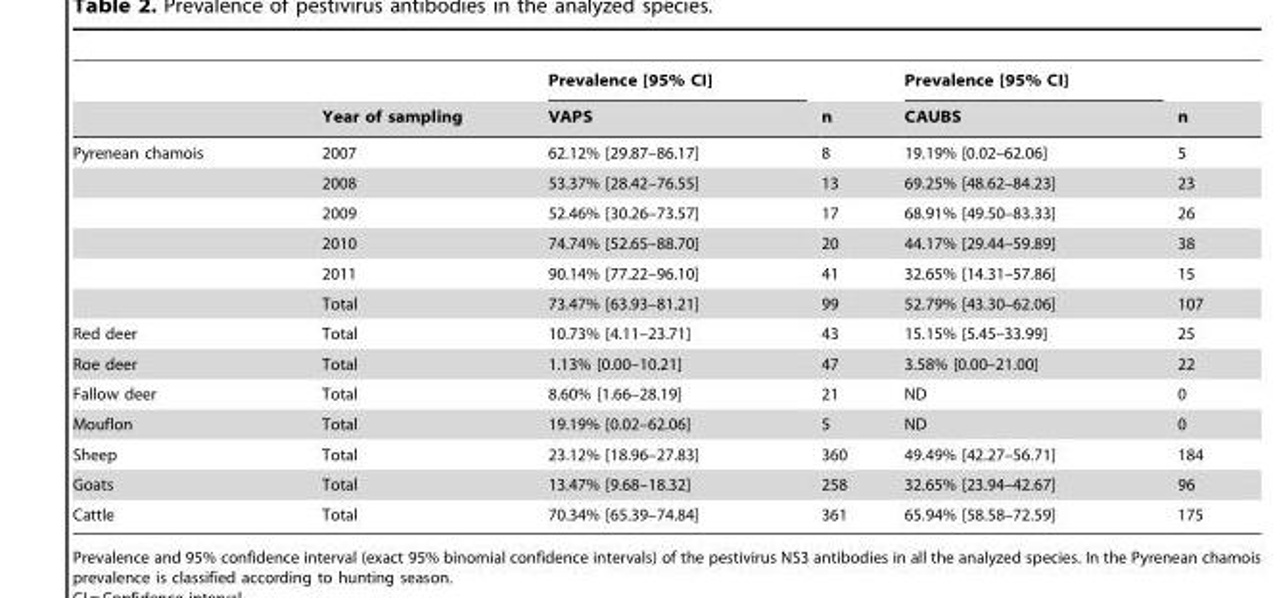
<table><thead><tr><td rowspan="2"></td><td rowspan="2">Year of sampling</td><td rowspan="2">Prevalence [95% CI] VAPS</td><td rowspan="2">n</td><td rowspan="2">Prevalence [95% CI] CAUBS</td><td rowspan="2">n</td></tr><tr></tr></thead><tbody><tr><td rowspan="6">Pyrenean chamois</td><td>2007</td><td>62.12% [29.87–86.17]</td><td>8</td><td>19.19% [0.02–62.06]</td><td>5</td></tr><tr><td>2008</td><td>53.37% [28.42–76.55]</td><td>13</td><td>69.25% [48.62–84.23]</td><td>23</td></tr><tr><td>2009</td><td>52.46% [30.26–73.57]</td><td>17</td><td>68.91% [49.50–83.33]</td><td>26</td></tr><tr><td>2010</td><td>74.74% [52.65–88.70]</td><td>20</td><td>44.17% [29.44–59.89]</td><td>38</td></tr><tr><td>2011</td><td>90.14% [77.22–96.10]</td><td>41</td><td>32.65% [14.31–57.86]</td><td>15</td></tr><tr><td>Total</td><td>73.47% [63.93–81.21]</td><td>99</td><td>52.79% [43.30–62.06]</td><td>107</td></tr><tr><td>Red deer</td><td>Total</td><td>10.73% [4.11–23.71]</td><td>43</td><td>15.15% [5.45–33.99]</td><td>25</td></tr><tr><td>Roe deer</td><td>Total</td><td>1.13% [0.00–10.21]</td><td>47</td><td>3.58% [0.00–21.00]</td><td>22</td></tr><tr><td>Fallow deer</td><td>Total</td><td>8.60% [1.66–28.19]</td><td>21</td><td>ND</td><td>0</td></tr><tr><td>Mouflon</td><td>Total</td><td>19.19% [0.02–62.06]</td><td>5</td><td>ND</td><td>0</td></tr><tr><td>Sheep</td><td>Total</td><td>23.12% [18.96–27.83]</td><td>360</td><td>49.49% [42.27–56.71]</td><td>184</td></tr><tr><td>Goats</td><td>Total</td><td>13.47% [9.68–18.32]</td><td>258</td><td>32.65% [23.94–42.67]</td><td>96</td></tr><tr><td>Cattle</td><td>Total</td><td>70.34% [65.39–74.84]</td><td>361</td><td>65.94% [58.58–72.59]</td><td>175</td></tr></tbody></table>